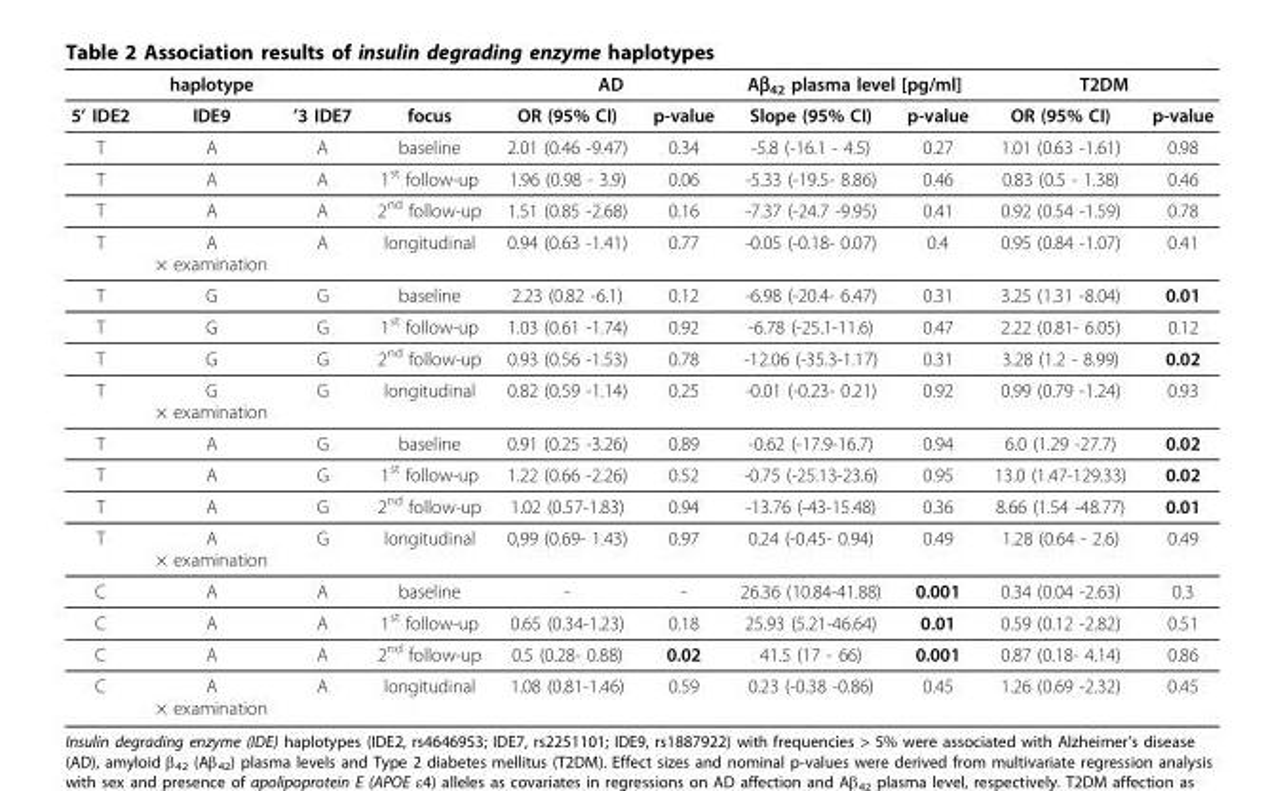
<table><thead><tr><td colspan="3">haplotype</td><td rowspan="2">focus</td><td colspan="2">AD</td><td colspan="2">Aβ<sub>42</sub> plasma level [pg/ml]</td><td colspan="2">T2DM</td></tr><tr><td>5’ IDE2</td><td>IDE9</td><td>’3 IDE7</td><td>OR (95% CI)</td><td>p-value</td><td>Slope (95% CI)</td><td>p-value</td><td>OR (95% CI)</td><td>p-value</td></tr></thead><tbody><tr><td>T</td><td>A</td><td>A</td><td>baseline</td><td>2.01 (0.46 -9.47)</td><td>0.34</td><td>-5.8 (-16.1 - 4.5)</td><td>0.27</td><td>1.01 (0.63 -1.61)</td><td>0.98</td></tr><tr><td>T</td><td>A</td><td>A</td><td>1<sup>st</sup> follow-up</td><td>1.96 (0.98 - 3.9)</td><td>0.06</td><td>-5.33 (-19.5- 8.86)</td><td>0.46</td><td>0.83 (0.5 - 1.38)</td><td>0.46</td></tr><tr><td>T</td><td>A</td><td>A</td><td>2<sup>nd</sup> follow-up</td><td>1.51 (0.85 -2.68)</td><td>0.16</td><td>-7.37 (-24.7 -9.95)</td><td>0.41</td><td>0.92 (0.54 -1.59)</td><td>0.78</td></tr><tr><td>T</td><td>A × examination</td><td>A</td><td>longitudinal</td><td>0.94 (0.63 -1.41)</td><td>0.77</td><td>-0.05 (-0.18- 0.07)</td><td>0.4</td><td>0.95 (0.84 -1.07)</td><td>0.41</td></tr><tr><td>T</td><td>G</td><td>G</td><td>baseline</td><td>2.23 (0.82 -6.1)</td><td>0.12</td><td>-6.98 (-20.4- 6.47)</td><td>0.31</td><td>3.25 (1.31 -8.04)</td><td>0.01</td></tr><tr><td>T</td><td>G</td><td>G</td><td>1<sup>st</sup> follow-up</td><td>1.03 (0.61 -1.74)</td><td>0.92</td><td>-6.78 (-25.1-11.6)</td><td>0.47</td><td>2.22 (0.81- 6.05)</td><td>0.12</td></tr><tr><td>T</td><td>G</td><td>G</td><td>2<sup>nd</sup> follow-up</td><td>0.93 (0.56 -1.53)</td><td>0.78</td><td>-12.06 (-35.3-1.17)</td><td>0.31</td><td>3.28 (1.2 - 8.99)</td><td>0.02</td></tr><tr><td>T</td><td>G × examination</td><td>G</td><td>longitudinal</td><td>0.82 (0.59 -1.14)</td><td>0.25</td><td>-0.01 (-0.23- 0.21)</td><td>0.92</td><td>0.99 (0.79 -1.24)</td><td>0.93</td></tr><tr><td>T</td><td>A</td><td>G</td><td>baseline</td><td>0.91 (0.25 -3.26)</td><td>0.89</td><td>-0.62 (-17.9-16.7)</td><td>0.94</td><td>6.0 (1.29 -27.7)</td><td>0.02</td></tr><tr><td>T</td><td>A</td><td>G</td><td>1<sup>st</sup> follow-up</td><td>1.22 (0.66 -2.26)</td><td>0.52</td><td>-0.75 (-25.13-23.6)</td><td>0.95</td><td>13.0 (1.47-129.33)</td><td>0.02</td></tr><tr><td>T</td><td>A</td><td>G</td><td>2<sup>nd</sup> follow-up</td><td>1.02 (0.57-1.83)</td><td>0.94</td><td>-13.76 (-43-15.48)</td><td>0.36</td><td>8.66 (1.54 -48.77)</td><td>0.01</td></tr><tr><td>T</td><td>A × examination</td><td>G</td><td>longitudinal</td><td>0,99 (0.69- 1.43)</td><td>0.97</td><td>0.24 (-0.45- 0.94)</td><td>0.49</td><td>1.28 (0.64 - 2.6)</td><td>0.49</td></tr><tr><td>C</td><td>A</td><td>A</td><td>baseline</td><td>-</td><td>-</td><td>26.36 (10.84-41.88)</td><td>0.001</td><td>0.34 (0.04 -2.63)</td><td>0.3</td></tr><tr><td>C</td><td>A</td><td>A</td><td>1<sup>st</sup> follow-up</td><td>0.65 (0.34-1.23)</td><td>0.18</td><td>25.93 (5.21-46.64)</td><td>0.01</td><td>0.59 (0.12 -2.82)</td><td>0.51</td></tr><tr><td>C</td><td>A</td><td>A</td><td>2<sup>nd</sup> follow-up</td><td>0.5 (0.28- 0.88)</td><td>0.02</td><td>41.5 (17 - 66)</td><td>0.001</td><td>0.87 (0.18- 4.14)</td><td>0.86</td></tr><tr><td>C</td><td>A × examination</td><td>A</td><td>longitudinal</td><td>1.08 (0.81-1.46)</td><td>0.59</td><td>0.23 (-0.38 -0.86)</td><td>0.45</td><td>1.26 (0.69 -2.32)</td><td>0.45</td></tr></tbody></table>